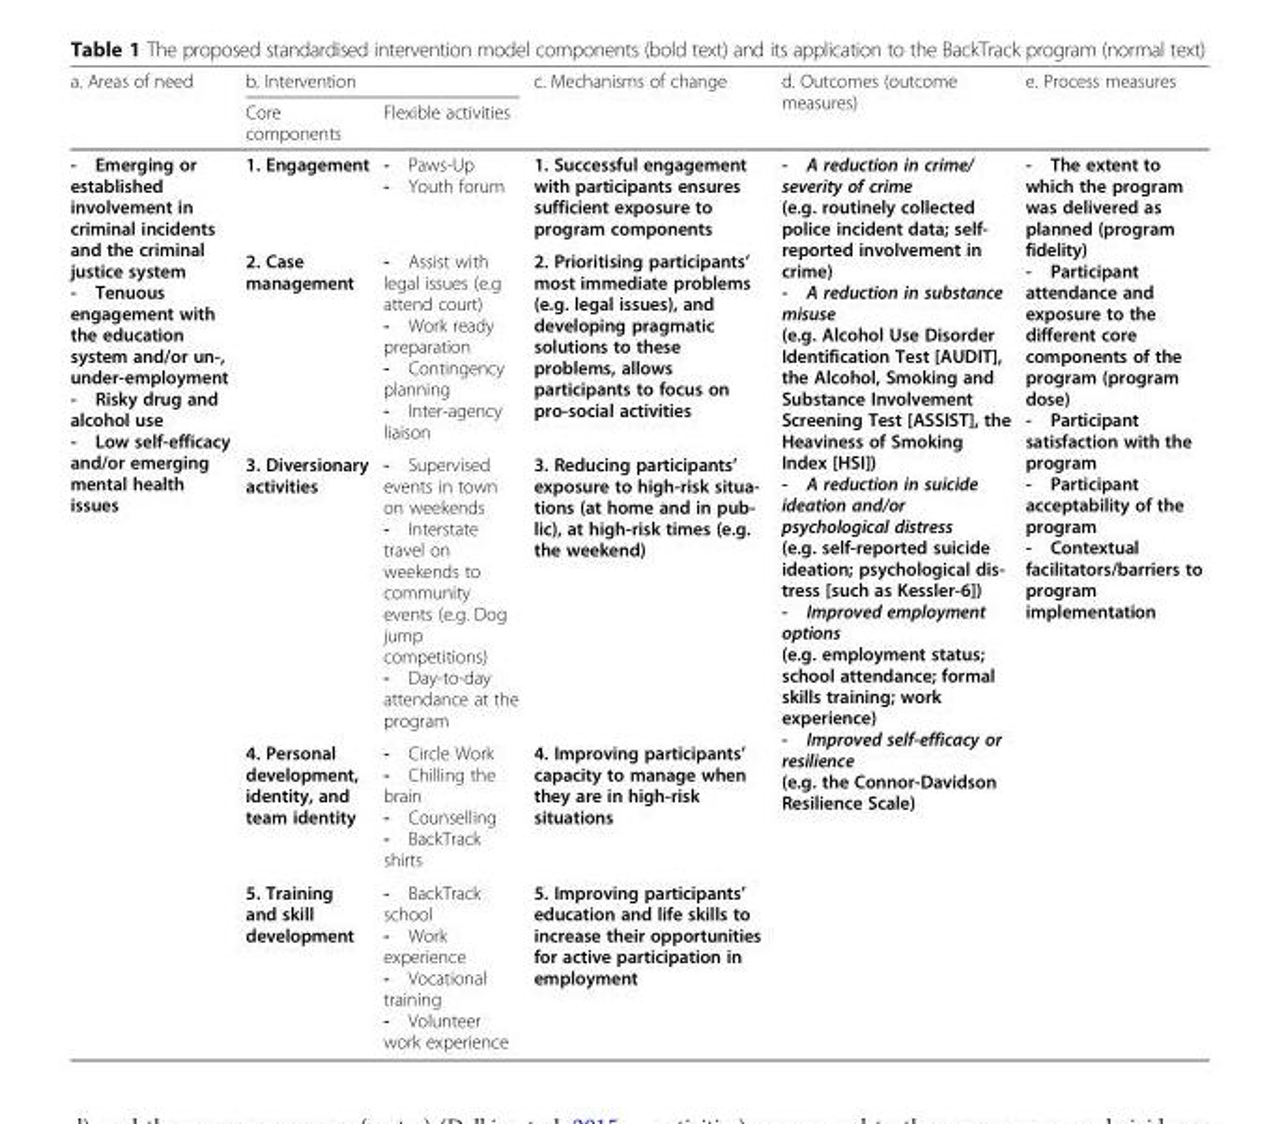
<table><thead><tr><td rowspan="2">a. Areas of need</td><td colspan="2">b. Intervention</td><td rowspan="2">c. Mechanisms of change</td><td rowspan="2">d. Outcomes (outcome measures)</td><td rowspan="2">e. Process measures</td></tr><tr><td>Core components</td><td>Flexible activities</td></tr></thead><tbody><tr><td rowspan="5">- Emerging or established involvement in criminal incidents and the criminal justice system - Tenuous engagement with the education system and/or un-, under-employment - Risky drug and alcohol use - Low self-efficacy and/or emerging mental health issues</td><td>1. Engagement</td><td>- Paws-Up - Youth forum</td><td>1. Successful engagement with participants ensures sufficient exposure to program components</td><td rowspan="5">- A reduction in crime/ severity of crime (e.g. routinely collected police incident data; self- reported involvement in crime) - A reduction in substance misuse (e.g. Alcohol Use Disorder Identification Test [AUDIT], the Alcohol, Smoking and Substance Involvement Screening Test [ASSIST], the Heaviness of Smoking Index [HSI]) - A reduction in suicide ideation and/or psychological distress (e.g. self-reported suicide ideation; psychological dis- tress [such as Kessler-6]) - Improved employment options (e.g. employment status; school attendance; formal skills training; work experience) - Improved self-efficacy or resilience (e.g. the Connor-Davidson Resilience Scale)</td><td rowspan="5">- The extent to which the program was delivered as planned (program fidelity) - Participant attendance and exposure to the different core components of the program (program dose) - Participant satisfaction with the program - Participant acceptability of the program - Contextual facilitators/barriers to program implementation</td></tr><tr><td>2. Case management</td><td>- Assist with legal issues (e.g attend court) - Work ready preparation - Contingency planning - Inter-agency liaison</td><td>2. Prioritising participants’ most immediate problems (e.g. legal issues), and developing pragmatic solutions to these problems, allows participants to focus on pro-social activities</td></tr><tr><td>3. Diversionary activities</td><td>- Supervised events in town on weekends - Interstate travel on weekends to community events (e.g. Dog jump competitions) - Day-to-day attendance at the program</td><td>3. Reducing participants’ exposure to high-risk situa- tions (at home and in pub- lic), at high-risk times (e.g. the weekend)</td></tr><tr><td>4. Personal development, identity, and team identity</td><td>- Circle Work - Chilling the brain - Counselling - BackTrack shirts</td><td>4. Improving participants’ capacity to manage when they are in high-risk situations</td></tr><tr><td>5. Training and skill development</td><td>- BackTrack school - Work experience - Vocational training - Volunteer work experience</td><td>5. Improving participants’ education and life skills to increase their opportunities for active participation in employment</td></tr></tbody></table>